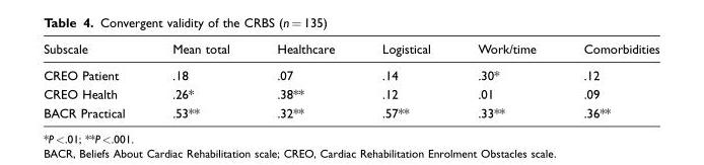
<table><thead><tr><td>Subscale</td><td>Mean total</td><td>Healthcare</td><td>Logistical</td><td>Work/time</td><td>Comorbidities</td></tr></thead><tbody><tr><td>CREO Patient</td><td>.18</td><td>.07</td><td>.14</td><td>.30*</td><td>.12</td></tr><tr><td>CREO Health</td><td>.26*</td><td>.38**</td><td>.12</td><td>.01</td><td>.09</td></tr><tr><td>BACR Practical</td><td>.53**</td><td>.32**</td><td>.57**</td><td>.33**</td><td>.36**</td></tr></tbody></table>